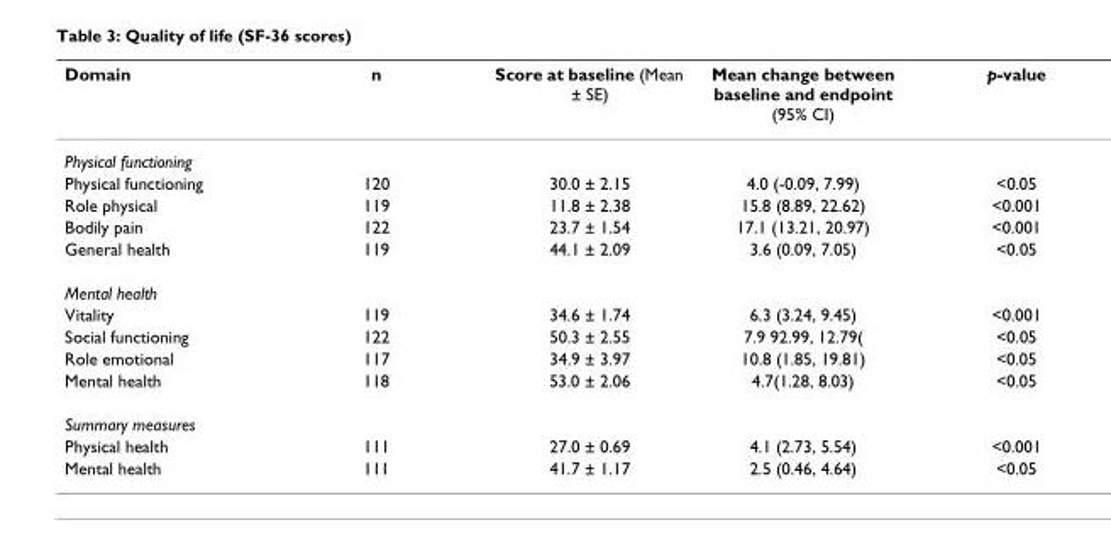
<table><thead><tr><td>Domain</td><td>n</td><td>Score at baseline (Mean ± SE)</td><td>Mean change between baseline and endpoint (95% CI)</td><td>p-value</td></tr></thead><tbody><tr><td colspan="5">Physical functioning</td></tr><tr><td>Physical functioning</td><td>120</td><td>30.0 ± 2.15</td><td>4.0 (-0.09, 7.99)</td><td>&lt;0.05</td></tr><tr><td>Role physical</td><td>119</td><td>11.8 ± 2.38</td><td>15.8 (8.89, 22.62)</td><td>&lt;0.001</td></tr><tr><td>Bodily pain</td><td>122</td><td>23.7 ± 1.54</td><td>17.1 (13.21, 20.97)</td><td>&lt;0.001</td></tr><tr><td>General health</td><td>119</td><td>44.1 ± 2.09</td><td>3.6 (0.09, 7.05)</td><td>&lt;0.05</td></tr><tr><td colspan="5">Mental health</td></tr><tr><td>Vitality</td><td>119</td><td>34.6 ± 1.74</td><td>6.3 (3.24, 9.45)</td><td>&lt;0.001</td></tr><tr><td>Social functioning</td><td>122</td><td>50.3 ± 2.55</td><td>7.9 92.99, 12.79(</td><td>&lt;0.05</td></tr><tr><td>Role emotional</td><td>117</td><td>34.9 ± 3.97</td><td>10.8 (1.85, 19.81)</td><td>&lt;0.05</td></tr><tr><td>Mental health</td><td>118</td><td>53.0 ± 2.06</td><td>4.7(1.28, 8.03)</td><td>&lt;0.05</td></tr><tr><td colspan="5">Summary measures</td></tr><tr><td>Physical health</td><td>111</td><td>27.0 ± 0.69</td><td>4.1 (2.73, 5.54)</td><td>&lt;0.001</td></tr><tr><td>Mental health</td><td>111</td><td>41.7 ± 1.17</td><td>2.5 (0.46, 4.64)</td><td>&lt;0.05</td></tr></tbody></table>